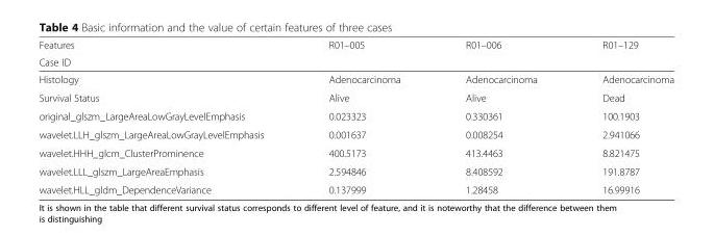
<table><thead><tr><td rowspan="2">Features Case ID</td><td rowspan="2">R01–005</td><td rowspan="2">R01–006</td><td rowspan="2">R01–129</td></tr><tr></tr></thead><tbody><tr><td>Histology</td><td>Adenocarcinoma</td><td>Adenocarcinoma</td><td>Adenocarcinoma</td></tr><tr><td>Survival Status</td><td>Alive</td><td>Alive</td><td>Dead</td></tr><tr><td>original_glszm_LargeAreaLowGrayLevelEmphasis</td><td>0.023323</td><td>0.330361</td><td>100.1903</td></tr><tr><td>wavelet.LLH_glszm_LargeAreaLowGrayLevelEmphasis</td><td>0.001637</td><td>0.008254</td><td>2.941066</td></tr><tr><td>wavelet.HHH_glcm_ClusterProminence</td><td>400.5173</td><td>413.4463</td><td>8.821475</td></tr><tr><td>wavelet.LLL_glszm_LargeAreaEmphasis</td><td>2.594846</td><td>8.408592</td><td>191.8787</td></tr><tr><td>wavelet.HLL_gldm_DependenceVariance</td><td>0.137999</td><td>1.28458</td><td>16.99916</td></tr></tbody></table>